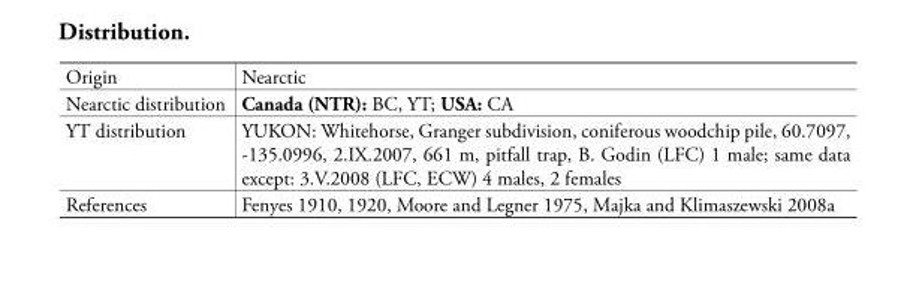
<table><tbody><tr><td>Origin</td><td>Nearctic</td></tr><tr><td>Nearctic distribution</td><td>Canada (NTR): BC, YT; USA: CA</td></tr><tr><td>YT distribution</td><td>YUKON: Whitehorse, Granger subdivision, coniferous woodchip pile, 60.7097, -135.0996, 2.IX.2007, 661 m, pitfall trap, B. Godin (LFC) 1 male; same data except: 3.V.2008 (LFC, ECW) 4 males, 2 females</td></tr><tr><td>References</td><td>Fenyes 1910, 1920, Moore and Legner 1975, Majka and Klimaszewski 2008a</td></tr></tbody></table>